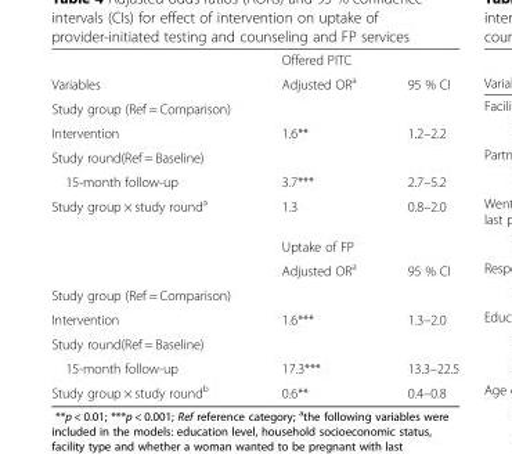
<table><thead><tr><td rowspan="2">Variables</td><td colspan="2">Offered PITC</td></tr><tr><td>Adjusted OR<sup>a</sup></td><td>95 % CI</td></tr></thead><tbody><tr><td colspan="3">Study group (Ref = Comparison)</td></tr><tr><td>Intervention</td><td>1.6**</td><td>1.2–2.2</td></tr><tr><td colspan="3">Study round(Ref = Baseline)</td></tr><tr><td>15-month follow-up</td><td>3.7***</td><td>2.7–5.2</td></tr><tr><td rowspan="3">Study group × study round<sup>a</sup></td><td>1.3</td><td>0.8–2.0</td></tr><tr><td colspan="2">Uptake of FP</td></tr><tr><td>Adjusted OR<sup>a</sup></td><td>95 % CI</td></tr><tr><td colspan="3">Study group (Ref = Comparison)</td></tr><tr><td>Intervention</td><td>1.6***</td><td>1.3–2.0</td></tr><tr><td colspan="3">Study round(Ref = Baseline)</td></tr><tr><td>15-month follow-up</td><td>17.3***</td><td>13.3–22.5</td></tr><tr><td>Study group × study round<sup>b</sup></td><td>0.6**</td><td>0.4–0.8</td></tr></tbody></table>